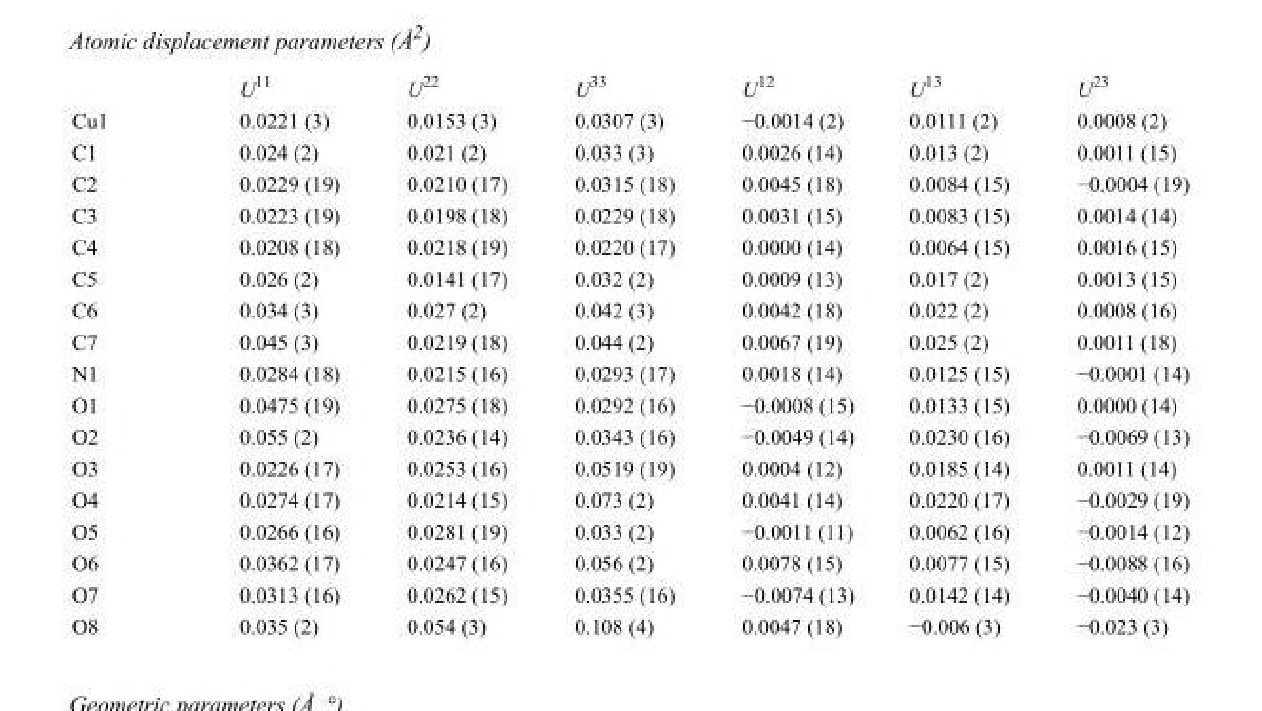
<table><thead><tr><td></td><td>U<sup>11</sup></td><td>U<sup>22</sup></td><td>U<sup>33</sup></td><td>U<sup>12</sup></td><td>U<sup>13</sup></td><td>U<sup>23</sup></td></tr></thead><tbody><tr><td>Cu1</td><td>0.0221 (3)</td><td>0.0153 (3)</td><td>0.0307 (3)</td><td>−0.0014 (2)</td><td>0.0111 (2)</td><td>0.0008 (2)</td></tr><tr><td>C1</td><td>0.024 (2)</td><td>0.021 (2)</td><td>0.033 (3)</td><td>0.0026 (14)</td><td>0.013 (2)</td><td>0.0011 (15)</td></tr><tr><td>C2</td><td>0.0229 (19)</td><td>0.0210 (17)</td><td>0.0315 (18)</td><td>0.0045 (18)</td><td>0.0084 (15)</td><td>−0.0004 (19)</td></tr><tr><td>C3</td><td>0.0223 (19)</td><td>0.0198 (18)</td><td>0.0229 (18)</td><td>0.0031 (15)</td><td>0.0083 (15)</td><td>0.0014 (14)</td></tr><tr><td>C4</td><td>0.0208 (18)</td><td>0.0218 (19)</td><td>0.0220 (17)</td><td>0.0000 (14)</td><td>0.0064 (15)</td><td>0.0016 (15)</td></tr><tr><td>C5</td><td>0.026 (2)</td><td>0.0141 (17)</td><td>0.032 (2)</td><td>0.0009 (13)</td><td>0.017 (2)</td><td>0.0013 (15)</td></tr><tr><td>C6</td><td>0.034 (3)</td><td>0.027 (2)</td><td>0.042 (3)</td><td>0.0042 (18)</td><td>0.022 (2)</td><td>0.0008 (16)</td></tr><tr><td>C7</td><td>0.045 (3)</td><td>0.0219 (18)</td><td>0.044 (2)</td><td>0.0067 (19)</td><td>0.025 (2)</td><td>0.0011 (18)</td></tr><tr><td>N1</td><td>0.0284 (18)</td><td>0.0215 (16)</td><td>0.0293 (17)</td><td>0.0018 (14)</td><td>0.0125 (15)</td><td>−0.0001 (14)</td></tr><tr><td>O1</td><td>0.0475 (19)</td><td>0.0275 (18)</td><td>0.0292 (16)</td><td>−0.0008 (15)</td><td>0.0133 (15)</td><td>0.0000 (14)</td></tr><tr><td>O2</td><td>0.055 (2)</td><td>0.0236 (14)</td><td>0.0343 (16)</td><td>−0.0049 (14)</td><td>0.0230 (16)</td><td>−0.0069 (13)</td></tr><tr><td>O3</td><td>0.0226 (17)</td><td>0.0253 (16)</td><td>0.0519 (19)</td><td>0.0004 (12)</td><td>0.0185 (14)</td><td>0.0011 (14)</td></tr><tr><td>O4</td><td>0.0274 (17)</td><td>0.0214 (15)</td><td>0.073 (2)</td><td>0.0041 (14)</td><td>0.0220 (17)</td><td>−0.0029 (19)</td></tr><tr><td>O5</td><td>0.0266 (16)</td><td>0.0281 (19)</td><td>0.033 (2)</td><td>−0.0011 (11)</td><td>0.0062 (16)</td><td>−0.0014 (12)</td></tr><tr><td>O6</td><td>0.0362 (17)</td><td>0.0247 (16)</td><td>0.056 (2)</td><td>0.0078 (15)</td><td>0.0077 (15)</td><td>−0.0088 (16)</td></tr><tr><td>O7</td><td>0.0313 (16)</td><td>0.0262 (15)</td><td>0.0355 (16)</td><td>−0.0074 (13)</td><td>0.0142 (14)</td><td>−0.0040 (14)</td></tr><tr><td>O8</td><td>0.035 (2)</td><td>0.054 (3)</td><td>0.108 (4)</td><td>0.0047 (18)</td><td>−0.006 (3)</td><td>−0.023 (3)</td></tr></tbody></table>